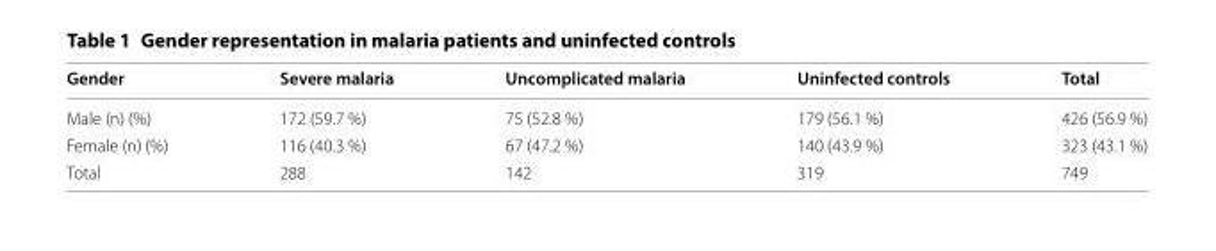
<table><thead><tr><td>Gender</td><td>Severe malaria</td><td>Uncomplicated malaria</td><td>Uninfected controls</td><td>Total</td></tr></thead><tbody><tr><td>Male (n) (%)</td><td>172 (59.7 %)</td><td>75 (52.8 %)</td><td>179 (56.1 %)</td><td>426 (56.9 %)</td></tr><tr><td>Female (n) (%)</td><td>116 (40.3 %)</td><td>67 (47.2 %)</td><td>140 (43.9 %)</td><td>323 (43.1 %)</td></tr><tr><td>Total</td><td>288</td><td>142</td><td>319</td><td>749</td></tr></tbody></table>